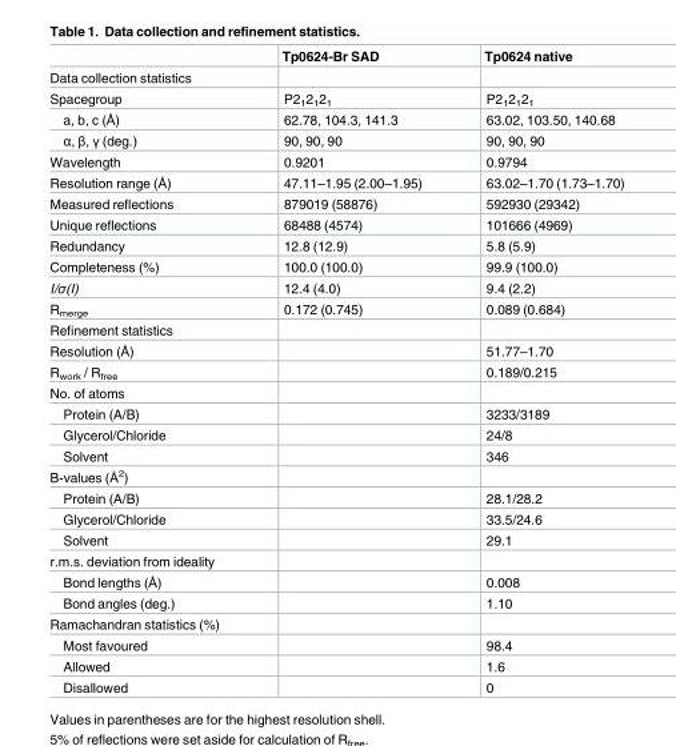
<table><thead><tr><td></td><td>Tp0624-Br SAD</td><td>Tp0624 native</td></tr></thead><tbody><tr><td colspan="3">Data collection statistics</td></tr><tr><td>Spacegroup</td><td>P2<sub>1</sub>2<sub>1</sub>2<sub>1</sub></td><td>P2<sub>1</sub>2<sub>1</sub>2<sub>1</sub></td></tr><tr><td>a, b, c (Å)</td><td>62.78, 104.3, 141.3</td><td>63.02, 103.50, 140.68</td></tr><tr><td>α, β, γ (deg.)</td><td>90, 90, 90</td><td>90, 90, 90</td></tr><tr><td>Wavelength</td><td>0.9201</td><td>0.9794</td></tr><tr><td>Resolution range (Å)</td><td>47.11–1.95 (2.00–1.95)</td><td>63.02–1.70 (1.73–1.70)</td></tr><tr><td>Measured reflections</td><td>879019 (58876)</td><td>592930 (29342)</td></tr><tr><td>Unique reflections</td><td>68488 (4574)</td><td>101666 (4969)</td></tr><tr><td>Redundancy</td><td>12.8 (12.9)</td><td>5.8 (5.9)</td></tr><tr><td>Completeness (%)</td><td>100.0 (100.0)</td><td>99.9 (100.0)</td></tr><tr><td>I/σ(I)</td><td>12.4 (4.0)</td><td>9.4 (2.2)</td></tr><tr><td>R<sub>merge</sub></td><td>0.172 (0.745)</td><td>0.089 (0.684)</td></tr><tr><td colspan="3">Refinement statistics</td></tr><tr><td>Resolution (Å)</td><td></td><td>51.77–1.70</td></tr><tr><td>R<sub>work</sub> / R<sub>free</sub></td><td></td><td>0.189/0.215</td></tr><tr><td colspan="3">No. of atoms</td></tr><tr><td>Protein (A/B)</td><td></td><td>3233/3189</td></tr><tr><td>Glycerol/Chloride</td><td></td><td>24/8</td></tr><tr><td>Solvent</td><td></td><td>346</td></tr><tr><td colspan="3">B-values (Å<sup>2</sup>)</td></tr><tr><td>Protein (A/B)</td><td></td><td>28.1/28.2</td></tr><tr><td>Glycerol/Chloride</td><td></td><td>33.5/24.6</td></tr><tr><td>Solvent</td><td></td><td>29.1</td></tr><tr><td colspan="3">r.m.s. deviation from ideality</td></tr><tr><td>Bond lengths (Å)</td><td></td><td>0.008</td></tr><tr><td>Bond angles (deg.)</td><td></td><td>1.10</td></tr><tr><td colspan="3">Ramachandran statistics (%)</td></tr><tr><td>Most favoured</td><td></td><td>98.4</td></tr><tr><td>Allowed</td><td></td><td>1.6</td></tr><tr><td>Disallowed</td><td></td><td>0</td></tr></tbody></table>